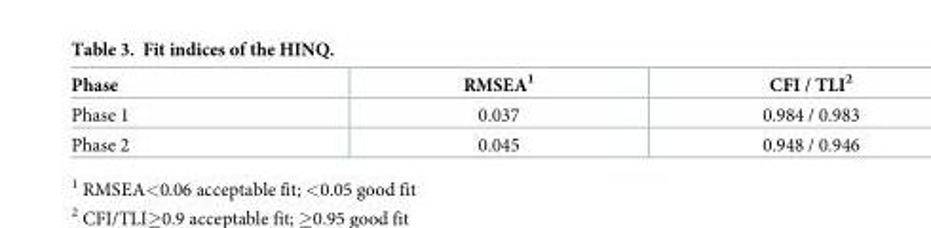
<table><thead><tr><td>Phase</td><td>RMSEA<sup>1</sup></td><td>CFI / TLI<sup>2</sup></td></tr></thead><tbody><tr><td>Phase 1</td><td>0.037</td><td>0.984 / 0.983</td></tr><tr><td>Phase 2</td><td>0.045</td><td>0.948 / 0.946</td></tr></tbody></table>